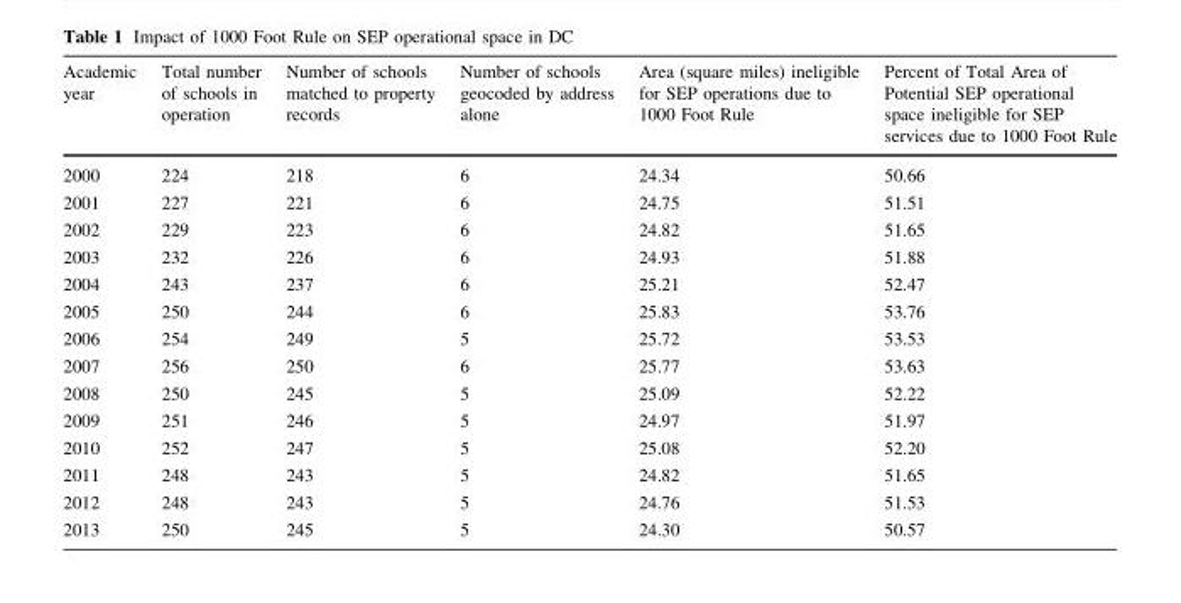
<table><thead><tr><td>Academic year</td><td>Total number of schools in operation</td><td>Number of schools matched to property records</td><td>Number of schools geocoded by address alone</td><td>Area (square miles) ineligible for SEP operations due to 1000 Foot Rule</td><td>Percent of Total Area of Potential SEP operational space ineligible for SEP services due to 1000 Foot Rule</td></tr></thead><tbody><tr><td>2000</td><td>224</td><td>218</td><td>6</td><td>24.34</td><td>50.66</td></tr><tr><td>2001</td><td>227</td><td>221</td><td>6</td><td>24.75</td><td>51.51</td></tr><tr><td>2002</td><td>229</td><td>223</td><td>6</td><td>24.82</td><td>51.65</td></tr><tr><td>2003</td><td>232</td><td>226</td><td>6</td><td>24.93</td><td>51.88</td></tr><tr><td>2004</td><td>243</td><td>237</td><td>6</td><td>25.21</td><td>52.47</td></tr><tr><td>2005</td><td>250</td><td>244</td><td>6</td><td>25.83</td><td>53.76</td></tr><tr><td>2006</td><td>254</td><td>249</td><td>5</td><td>25.72</td><td>53.53</td></tr><tr><td>2007</td><td>256</td><td>250</td><td>6</td><td>25.77</td><td>53.63</td></tr><tr><td>2008</td><td>250</td><td>245</td><td>5</td><td>25.09</td><td>52.22</td></tr><tr><td>2009</td><td>251</td><td>246</td><td>5</td><td>24.97</td><td>51.97</td></tr><tr><td>2010</td><td>252</td><td>247</td><td>5</td><td>25.08</td><td>52.20</td></tr><tr><td>2011</td><td>248</td><td>243</td><td>5</td><td>24.82</td><td>51.65</td></tr><tr><td>2012</td><td>248</td><td>243</td><td>5</td><td>24.76</td><td>51.53</td></tr><tr><td>2013</td><td>250</td><td>245</td><td>5</td><td>24.30</td><td>50.57</td></tr></tbody></table>